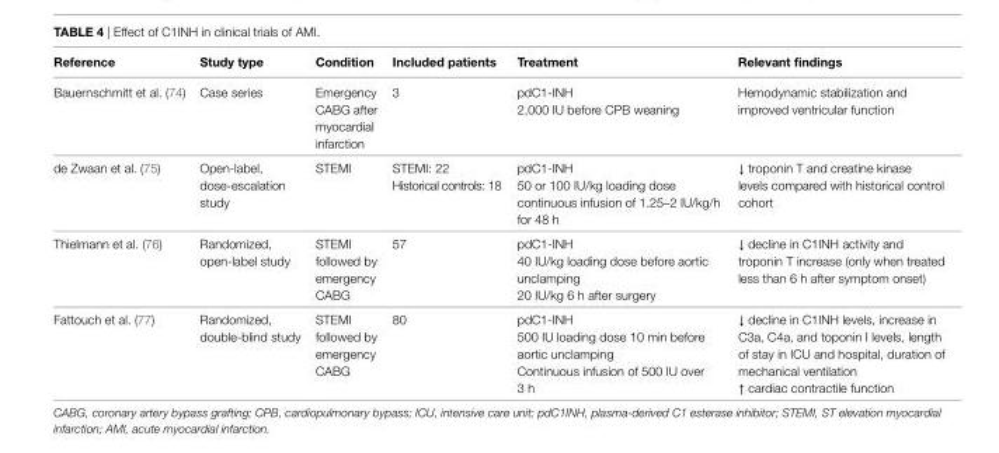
<table><thead><tr><td>Reference</td><td>Study type</td><td>Condition</td><td>included patients</td><td>Treatment</td><td>Relevant findings</td></tr></thead><tbody><tr><td>Bauernschmitt et al. (74)</td><td>Case series</td><td>Emergency CABG after myocardial infarction</td><td>3</td><td>pdC1-INH 2,000 IU before CPB weaning</td><td>Hemodynamic stabilization and improved ventricular function</td></tr><tr><td>de Zwaan et al. (75)</td><td>Open-label, dose-escalation study</td><td>STEMI</td><td>STEMI: 22 Historical controls: 18</td><td>pdC1-INH 50 or 100 IU/kg loading dose continuous infusion of 1.25–2 IU/kg/h for 48 h</td><td>↓ troponin T and creatine kinase levels compared with historical control cohort</td></tr><tr><td>Thielmann et al. (76)</td><td>Randomized, open-label study</td><td>STEMI followed by emergency CABG</td><td>57</td><td>pdC1-INH 40 IU/kg loading dose before aortic unclamping 20 IU/kg 6 h after surgery</td><td>↓ decline in C1INH activity and troponin T increase (only when treated less than 6 h after symptom onset)</td></tr><tr><td>Fattouch et al. (77)</td><td>Randomized, double-blind study</td><td>STEMI followed by emergency CABG</td><td>80</td><td>pdC1-INH 500 IU loading dose 10 min before aortic unclamping Continuous infusion of 500 IU over 3 h</td><td>↓ decline in C1INH levels, increase in C3a, C4a, and toponin I levels, length of stay in ICU and hospital, duration of mechanical ventilation ↑ cardiac contractile function</td></tr></tbody></table>